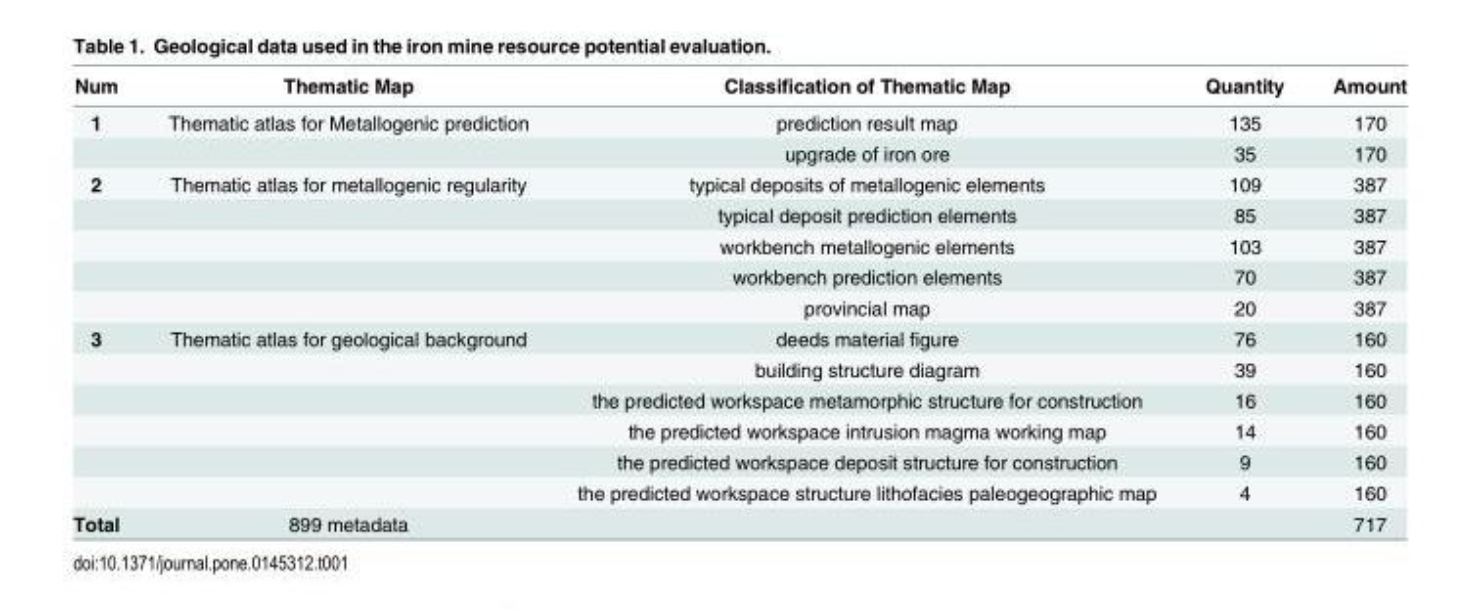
<table><thead><tr><td>Num</td><td>Thematic Map</td><td>Classification of Thematic Map</td><td>Quantity</td><td>Amount</td></tr></thead><tbody><tr><td rowspan="2">1</td><td>Thematic atlas for Metallogenic prediction</td><td>prediction result map</td><td>135</td><td>170</td></tr><tr><td></td><td>upgrade of iron ore</td><td>35</td><td>170</td></tr><tr><td rowspan="5">2</td><td>Thematic atlas for metallogenic regularity</td><td>typical deposits of metallogenic elements</td><td>109</td><td>387</td></tr><tr><td></td><td>typical deposit prediction elements</td><td>85</td><td>387</td></tr><tr><td></td><td>workbench metallogenic elements</td><td>103</td><td>387</td></tr><tr><td></td><td>workbench prediction elements</td><td>70</td><td>387</td></tr><tr><td></td><td>provincial map</td><td>20</td><td>387</td></tr><tr><td rowspan="6">3</td><td>Thematic atlas for geological background</td><td>deeds material figure</td><td>76</td><td>160</td></tr><tr><td></td><td>building structure diagram</td><td>39</td><td>160</td></tr><tr><td></td><td>the predicted workspace metamorphic structure for construction</td><td>16</td><td>160</td></tr><tr><td></td><td>the predicted workspace intrusion magma working map</td><td>14</td><td>160</td></tr><tr><td></td><td>the predicted workspace deposit structure for construction</td><td>9</td><td>160</td></tr><tr><td></td><td>the predicted workspace structure lithofacies paleogeographic map</td><td>4</td><td>160</td></tr><tr><td>Total</td><td>899 metadata</td><td></td><td></td><td>717</td></tr></tbody></table>